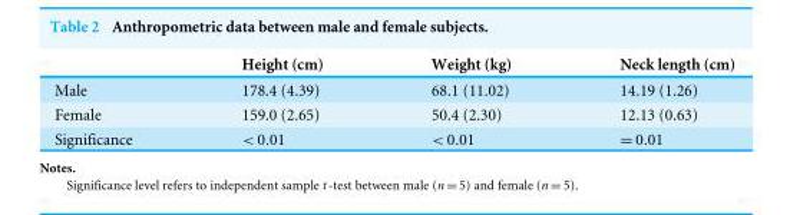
<table><thead><tr><td></td><td>Height (cm)</td><td>Weight (kg)</td><td>Neck length (cm)</td></tr></thead><tbody><tr><td>Male</td><td>178.4 (4.39)</td><td>68.1 (11.02)</td><td>14.19 (1.26)</td></tr><tr><td>Female</td><td>159.0 (2.65)</td><td>50.4 (2.30)</td><td>12.13 (0.63)</td></tr><tr><td>Significance</td><td>&lt; 0.01</td><td>&lt; 0.01</td><td>= 0.01</td></tr></tbody></table>